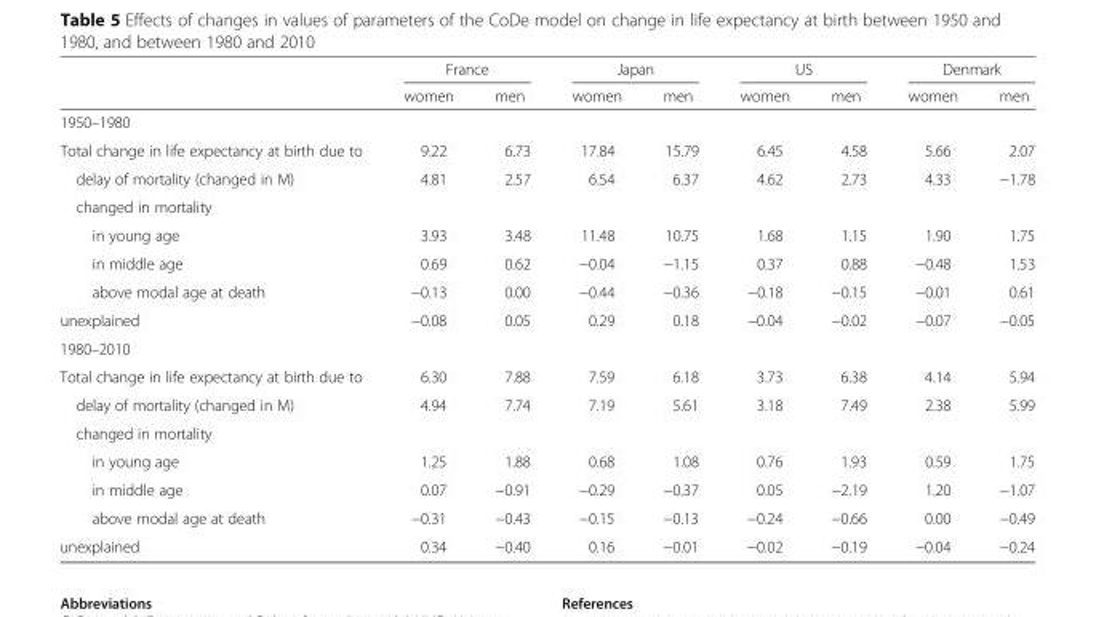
<table><thead><tr><td rowspan="2"></td><td colspan="2">France</td><td colspan="2">Japan</td><td colspan="2">US</td><td colspan="2">Denmark</td></tr><tr><td>women</td><td>men</td><td>women</td><td>men</td><td>women</td><td>men</td><td>women</td><td>men</td></tr></thead><tbody><tr><td colspan="9">1950–1980</td></tr><tr><td>Total change in life expectancy at birth due to</td><td>9.22</td><td>6.73</td><td>17.84</td><td>15.79</td><td>6.45</td><td>4.58</td><td>5.66</td><td>2.07</td></tr><tr><td>delay of mortality (changed in M)</td><td>4.81</td><td>2.57</td><td>6.54</td><td>6.37</td><td>4.62</td><td>2.73</td><td>4.33</td><td>−1.78</td></tr><tr><td colspan="9">changed in mortality</td></tr><tr><td>in young age</td><td>3.93</td><td>3.48</td><td>11.48</td><td>10.75</td><td>1.68</td><td>1.15</td><td>1.90</td><td>1.75</td></tr><tr><td>in middle age</td><td>0.69</td><td>0.62</td><td>−0.04</td><td>−1.15</td><td>0.37</td><td>0.88</td><td>−0.48</td><td>1.53</td></tr><tr><td>above modal age at death</td><td>−0.13</td><td>0.00</td><td>−0.44</td><td>−0.36</td><td>−0.18</td><td>−0.15</td><td>−0.01</td><td>0.61</td></tr><tr><td>unexplained</td><td>−0.08</td><td>0.05</td><td>0.29</td><td>0.18</td><td>−0.04</td><td>−0.02</td><td>−0.07</td><td>−0.05</td></tr><tr><td colspan="9">1980–2010</td></tr><tr><td>Total change in life expectancy at birth due to</td><td>6.30</td><td>7.88</td><td>7.59</td><td>6.18</td><td>3.73</td><td>6.38</td><td>4.14</td><td>5.94</td></tr><tr><td>delay of mortality (changed in M)</td><td>4.94</td><td>7.74</td><td>7.19</td><td>5.61</td><td>3.18</td><td>7.49</td><td>2.38</td><td>5.99</td></tr><tr><td colspan="9">changed in mortality</td></tr><tr><td>in young age</td><td>1.25</td><td>1.88</td><td>0.68</td><td>1.08</td><td>0.76</td><td>1.93</td><td>0.59</td><td>1.75</td></tr><tr><td>in middle age</td><td>0.07</td><td>−0.91</td><td>−0.29</td><td>−0.37</td><td>0.05</td><td>−2.19</td><td>1.20</td><td>−1.07</td></tr><tr><td>above modal age at death</td><td>−0.31</td><td>−0.43</td><td>−0.15</td><td>−0.13</td><td>−0.24</td><td>−0.66</td><td>0.00</td><td>−0.49</td></tr><tr><td>unexplained</td><td>0.34</td><td>−0.40</td><td>0.16</td><td>−0.01</td><td>−0.02</td><td>−0.19</td><td>−0.04</td><td>−0.24</td></tr></tbody></table>